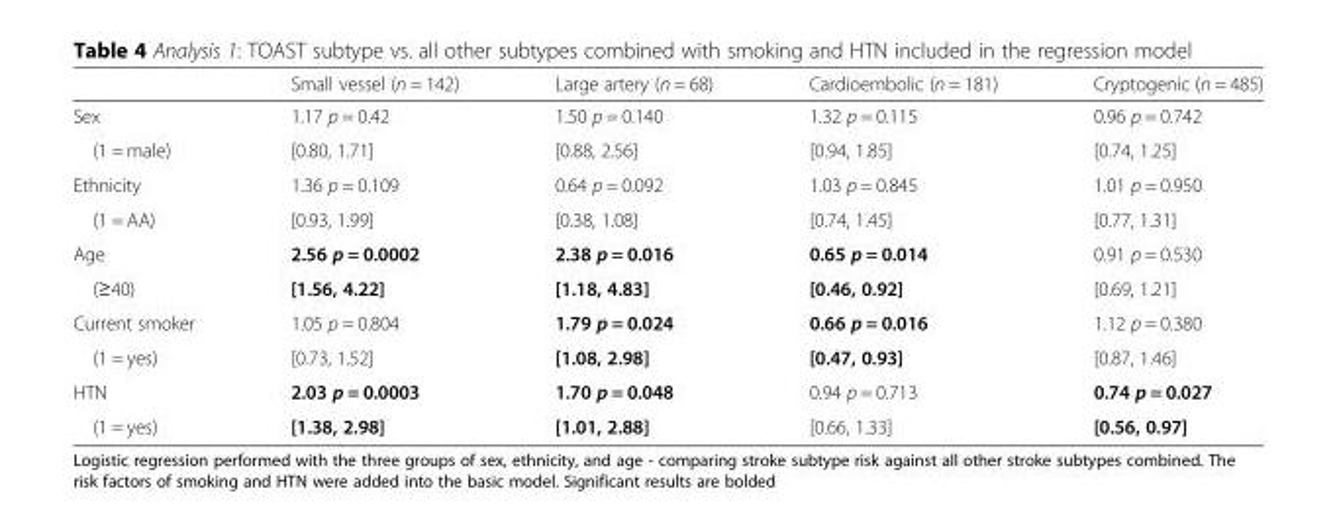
<table><thead><tr><td></td><td>Small vessel (n = 142)</td><td>Large artery (n = 68)</td><td>Cardioembolic (n = 181)</td><td>Cryptogenic (n = 485)</td></tr></thead><tbody><tr><td>Sex</td><td>1.17 p = 0.42</td><td>1.50 p = 0.140</td><td>1.32 p = 0.115</td><td>0.96 p = 0.742</td></tr><tr><td>(1 = male)</td><td>[0.80, 1.71]</td><td>[0.88, 2.56]</td><td>[0.94, 1.85]</td><td>[0.74, 1.25]</td></tr><tr><td>Ethnicity</td><td>1.36 p = 0.109</td><td>0.64 p = 0.092</td><td>1.03 p = 0.845</td><td>1.01 p = 0.950</td></tr><tr><td>(1 = AA)</td><td>[0.93, 1.99]</td><td>[0.38, 1.08]</td><td>[0.74, 1.45]</td><td>[0.77, 1.31]</td></tr><tr><td>Age</td><td>2.56 p = 0.0002</td><td>2.38 p = 0.016</td><td>0.65 p = 0.014</td><td>0.91 p = 0.530</td></tr><tr><td>(≥40)</td><td>[1.56, 4.22]</td><td>[1.18, 4.83]</td><td>[0.46, 0.92]</td><td>[0.69, 1.21]</td></tr><tr><td>Current smoker</td><td>1.05 p = 0.804</td><td>1.79 p = 0.024</td><td>0.66 p = 0.016</td><td>1.12 p = 0.380</td></tr><tr><td>(1 = yes)</td><td>[0.73, 1.52]</td><td>[1.08, 2.98]</td><td>[0.47, 0.93]</td><td>[0.87, 1.46]</td></tr><tr><td>HTN</td><td>2.03 p = 0.0003</td><td>1.70 p = 0.048</td><td>0.94 p = 0.713</td><td>0.74 p = 0.027</td></tr><tr><td>(1 = yes)</td><td>[1.38, 2.98]</td><td>[1.01, 2.88]</td><td>[0.66, 1.33]</td><td>[0.56, 0.97]</td></tr></tbody></table>